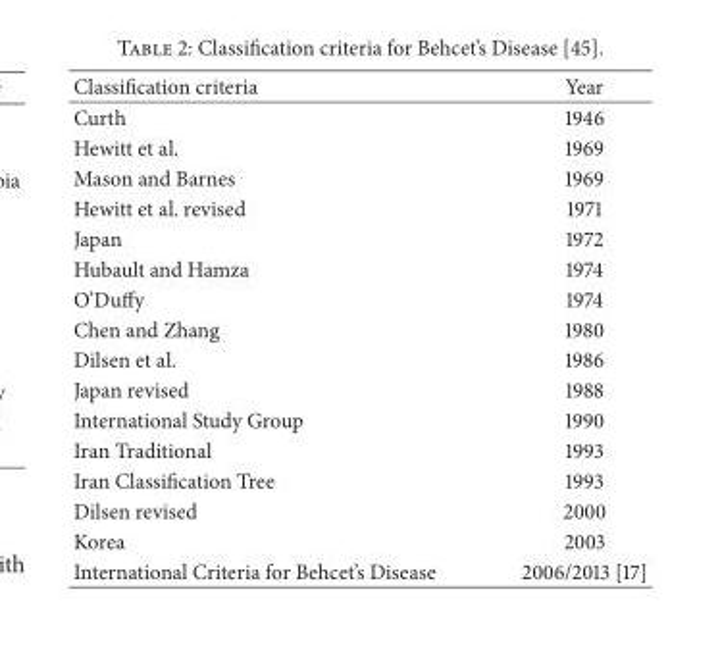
<table><thead><tr><td>Classification criteria</td><td>Year</td></tr></thead><tbody><tr><td>Curth</td><td>1946</td></tr><tr><td>Hewitt et al.</td><td>1969</td></tr><tr><td>Mason and Barnes</td><td>1969</td></tr><tr><td>Hewitt et al. revised</td><td>1971</td></tr><tr><td>Japan</td><td>1972</td></tr><tr><td>Hubault and Hamza</td><td>1974</td></tr><tr><td>O’Duffy</td><td>1974</td></tr><tr><td>Chen and Zhang</td><td>1980</td></tr><tr><td>Dilsen et al.</td><td>1986</td></tr><tr><td>Japan revised</td><td>1988</td></tr><tr><td>International Study Group</td><td>1990</td></tr><tr><td>Iran Traditional</td><td>1993</td></tr><tr><td>Iran Classification Tree</td><td>1993</td></tr><tr><td>Dilsen revised</td><td>2000</td></tr><tr><td>Korea</td><td>2003</td></tr><tr><td>International Criteria for Behcet’s Disease</td><td>2006/2013 [17]</td></tr></tbody></table>